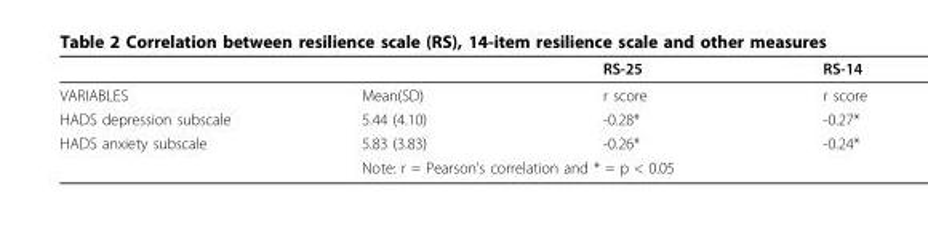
<table><thead><tr><td></td><td></td><td>RS-25</td><td>RS-14</td></tr></thead><tbody><tr><td>VARIABLES</td><td>Mean(SD)</td><td>r score</td><td>r score</td></tr><tr><td>HADS depression subscale</td><td>5.44 (4.10)</td><td>-0.28*</td><td>-0.27*</td></tr><tr><td rowspan="2">HADS anxiety subscale</td><td>5.83 (3.83)</td><td>-0.26*</td><td>-0.24*</td></tr><tr><td colspan="3">Note: r = Pearson’s correlation and * = p &lt; 0.05</td></tr></tbody></table>